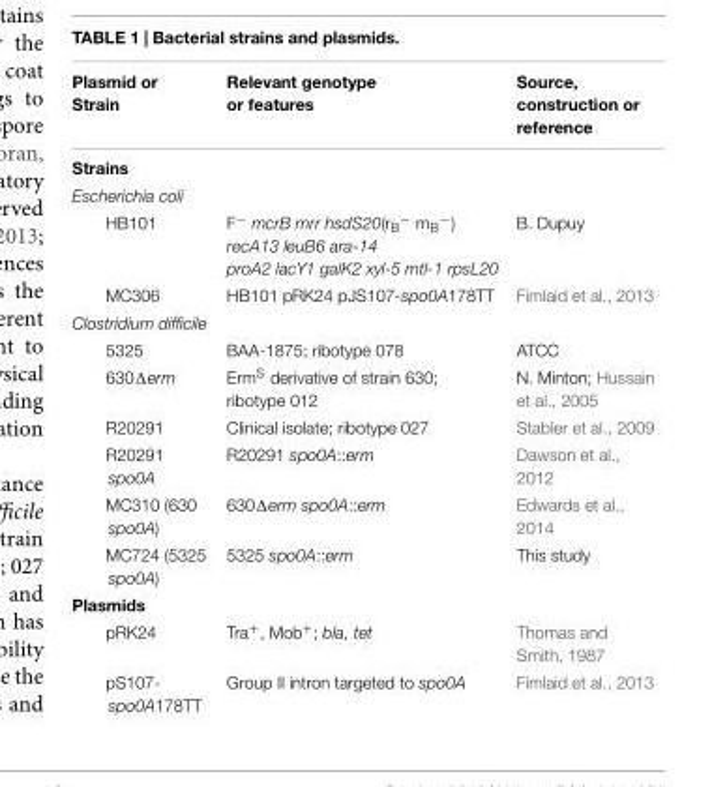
<table><thead><tr><td>Plasmid or Strain</td><td>Relevant genotype or features</td><td>Source, construction or reference</td></tr></thead><tbody><tr><td colspan="3">Strains</td></tr><tr><td colspan="3">Escherichia coli</td></tr><tr><td>HB101</td><td>F<sup>−</sup> mcrB mrr hsdS20(r<sub>B</sub><sup>−</sup> m<sub>B</sub><sup>−</sup>) recA13 leuB6 ara-14 proA2 lacY1 galK2 xyl-5 mtl-1 rpsL20</td><td>B. Dupuy</td></tr><tr><td>MC306</td><td>HB101 pRK24 pJS107-spo0A178TT</td><td>Fimlaid et al., 2013</td></tr><tr><td colspan="3">Clostridium difficile</td></tr><tr><td>5325</td><td>BAA-1875; ribotype 078</td><td>ATCC</td></tr><tr><td>630Δerm</td><td>Erm<sup>S</sup> derivative of strain 630; ribotype 012</td><td>N. Minton; Hussain et al., 2005</td></tr><tr><td>R20291</td><td>Clinical isolate; ribotype 027</td><td>Stabler et al., 2009</td></tr><tr><td>R20291 spo0A</td><td>R20291 spo0A::erm</td><td>Dawson et al., 2012</td></tr><tr><td>MC310 (630 spo0A)</td><td>630Δerm spo0A::erm</td><td>Edwards et al., 2014</td></tr><tr><td>MC724 (5325 spo0A)</td><td>5325 spo0A::erm</td><td>This study</td></tr><tr><td colspan="3">Plasmids</td></tr><tr><td>pRK24</td><td>Tra<sup>+</sup>, Mob<sup>+</sup>; bla, tet</td><td>Thomas and Smith, 1987</td></tr><tr><td>pS107- spo0A178TT</td><td>Group II intron targeted to spo0A</td><td>Fimlaid et al., 2013</td></tr></tbody></table>